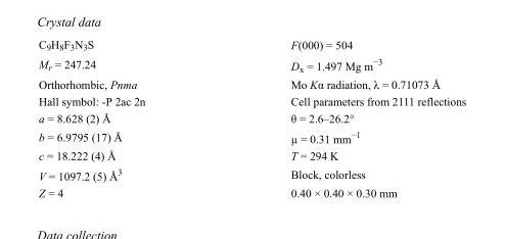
<table><tbody><tr><td>C<sub>9</sub>H<sub>8</sub>F<sub>3</sub>N<sub>3</sub>S</td><td>F(000) = 504</td></tr><tr><td>M<sub>r</sub> = 247.24</td><td>D<sub>x</sub> = 1.497 Mg m<sup>−3</sup></td></tr><tr><td>Orthorhombic, Pnma</td><td>Mo Kα radiation, λ = 0.71073 Å</td></tr><tr><td>Hall symbol: -P 2ac 2n</td><td>Cell parameters from 2111 reflections</td></tr><tr><td>a = 8.628 (2) Å</td><td>θ = 2.6–26.2°</td></tr><tr><td>b = 6.9795 (17) Å</td><td>µ = 0.31 mm<sup>−1</sup></td></tr><tr><td>c = 18.222 (4) Å</td><td>T = 294 K</td></tr><tr><td>V = 1097.2 (5) Å<sup>3</sup></td><td>Block, colorless</td></tr><tr><td>Z = 4</td><td>0.40 × 0.40 × 0.30 mm</td></tr></tbody></table>